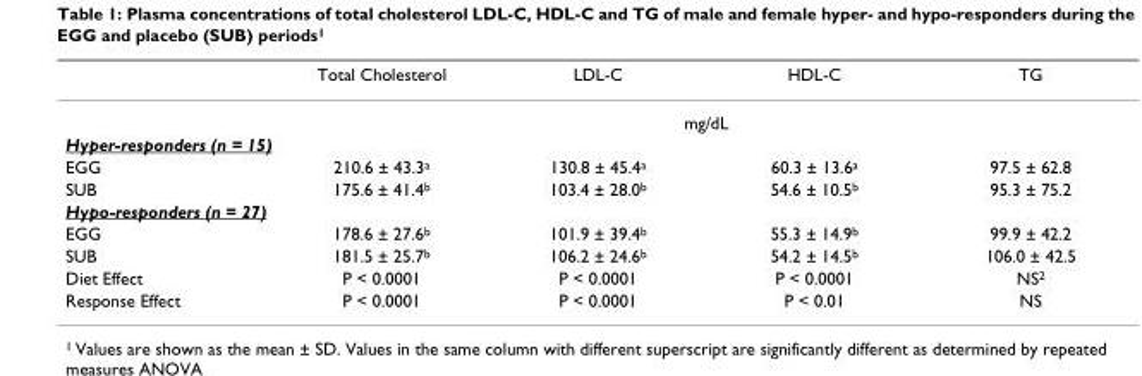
<table><thead><tr><td></td><td>Total Cholesterol</td><td>LDL-C</td><td>HDL-C</td><td>TG</td></tr></thead><tbody><tr><td></td><td colspan="4">mg/dL</td></tr><tr><td colspan="5">Hyper-responders (n = 15)</td></tr><tr><td>EGG</td><td>210.6 ± 43.3<sup>a</sup></td><td>130.8 ± 45.4<sup>a</sup></td><td>60.3 ± 13.6<sup>a</sup></td><td>97.5 ± 62.8</td></tr><tr><td>SUB</td><td>175.6 ± 41.4<sup>b</sup></td><td>103.4 ± 28.0<sup>b</sup></td><td>54.6 ± 10.5<sup>b</sup></td><td>95.3 ± 75.2</td></tr><tr><td colspan="5">Hypo-responders (n = 27)</td></tr><tr><td>EGG</td><td>178.6 ± 27.6<sup>b</sup></td><td>101.9 ± 39.4<sup>b</sup></td><td>55.3 ± 14.9<sup>b</sup></td><td>99.9 ± 42.2</td></tr><tr><td>SUB</td><td>181.5 ± 25.7<sup>b</sup></td><td>106.2 ± 24.6<sup>b</sup></td><td>54.2 ± 14.5<sup>b</sup></td><td>106.0 ± 42.5</td></tr><tr><td>Diet Effect</td><td>P &lt; 0.0001</td><td>P &lt; 0.0001</td><td>P &lt; 0.0001</td><td>NS<sup>2</sup></td></tr><tr><td>Response Effect</td><td>P &lt; 0.0001</td><td>P &lt; 0.0001</td><td>P &lt; 0.01</td><td>NS</td></tr></tbody></table>